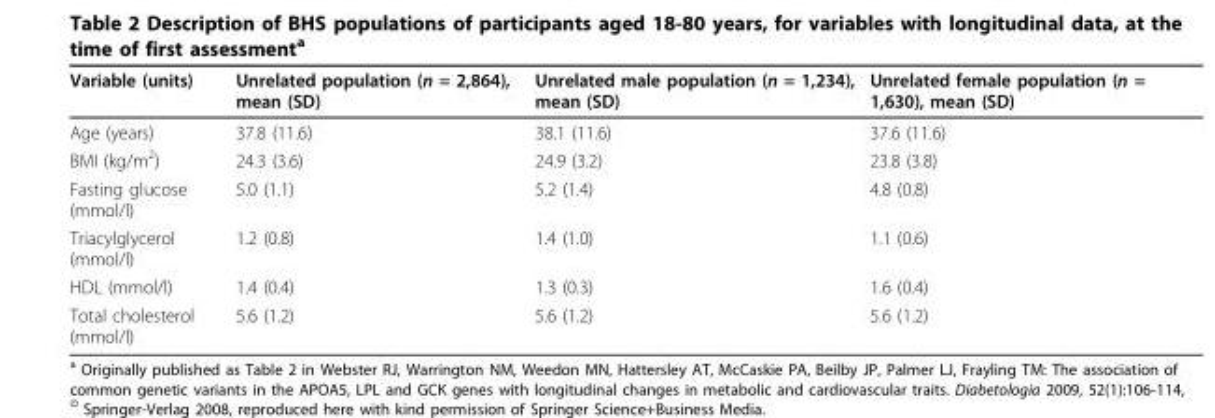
<table><thead><tr><td>Variable (units)</td><td>Unrelated population (n = 2,864), mean (SD)</td><td>Unrelated male population (n = 1,234), mean (SD)</td><td>Unrelated female population (n = 1,630), mean (SD)</td></tr></thead><tbody><tr><td>Age (years)</td><td>37.8 (11.6)</td><td>38.1 (11.6)</td><td>37.6 (11.6)</td></tr><tr><td>BMI (kg/m<sup>2</sup>)</td><td>24.3 (3.6)</td><td>24.9 (3.2)</td><td>23.8 (3.8)</td></tr><tr><td>Fasting glucose (mmol/l)</td><td>5.0 (1.1)</td><td>5.2 (1.4)</td><td>4.8 (0.8)</td></tr><tr><td>Triacylglycerol (mmol/l)</td><td>1.2 (0.8)</td><td>1.4 (1.0)</td><td>1.1 (0.6)</td></tr><tr><td>HDL (mmol/l)</td><td>1.4 (0.4)</td><td>1.3 (0.3)</td><td>1.6 (0.4)</td></tr><tr><td>Total cholesterol (mmol/l)</td><td>5.6 (1.2)</td><td>5.6 (1.2)</td><td>5.6 (1.2)</td></tr></tbody></table>